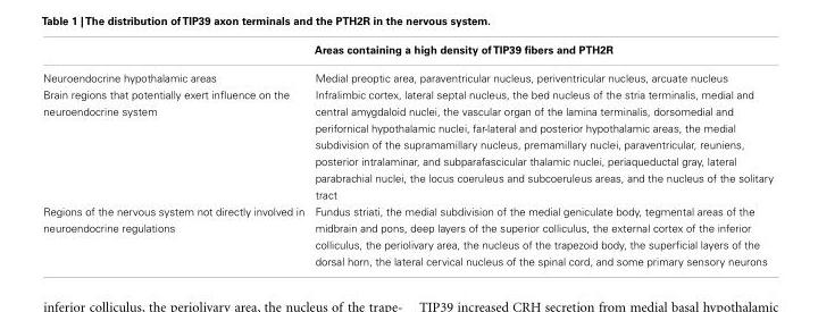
<table><thead><tr><td></td><td>Areas containing a high density ofTIP39 fibers and PTH2R</td></tr></thead><tbody><tr><td>Neuroendocrine hypothalamic areas</td><td>Medial preoptic area, paraventricular nucleus, periventricular nucleus, arcuate nucleus</td></tr><tr><td>Brain regions that potentially exert influence on the neuroendocrine system</td><td>Infralimbic cortex, lateral septal nucleus, the bed nucleus of the stria terminalis, medial and central amygdaloid nuclei, the vascular organ of the lamina terminalis, dorsomedial and perifornical hypothalamic nuclei, far-lateral and posterior hypothalamic areas, the medial subdivision of the supramamillary nucleus, premamillary nuclei, paraventricular, reuniens, posterior intralaminar, and subparafascicular thalamic nuclei, periaqueductal gray, lateral parabrachial nuclei, the locus coeruleus and subcoeruleus areas, and the nucleus of the solitary tract</td></tr><tr><td>Regions of the nervous system not directly involved in neuroendocrine regulations</td><td>Fundus striati, the medial subdivision of the medial geniculate body, tegmental areas of the midbrain and pons, deep layers of the superior colliculus, the external cortex of the inferior colliculus, the periolivary area, the nucleus of the trapezoid body, the superficial layers of the dorsal horn, the lateral cervical nucleus of the spinal cord, and some primary sensory neurons</td></tr></tbody></table>